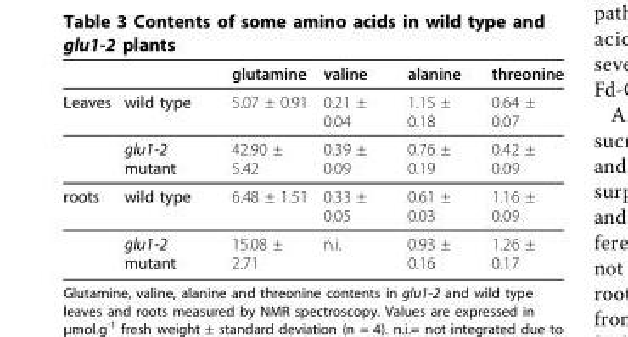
<table><thead><tr><td></td><td></td><td>glutamine</td><td>valine</td><td>alanine</td><td>threonine</td></tr></thead><tbody><tr><td rowspan="2">Leaves</td><td>wild type</td><td>5.07 ± 0.91</td><td>0.21 ± 0.04</td><td>1.15 ± 0.18</td><td>0.64 ± 0.07</td></tr><tr><td>glu1-2 mutant</td><td>42.90 ± 5.42</td><td>0.39 ± 0.09</td><td>0.76 ± 0.19</td><td>0.42 ± 0.09</td></tr><tr><td rowspan="2">roots</td><td>wild type</td><td>6.48 ± 1.51</td><td>0.33 ± 0.05</td><td>0.61 ± 0.03</td><td>1.16 ± 0.09</td></tr><tr><td>glu1-2 mutant</td><td>15.08 ± 2.71</td><td>n.i.</td><td>0.93 ± 0.16</td><td>1.26 ± 0.17</td></tr></tbody></table>